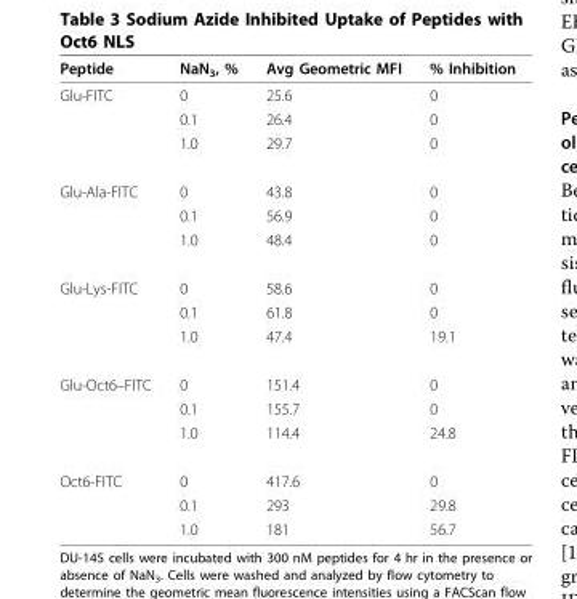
<table><thead><tr><td>Peptide</td><td>NaN<sub>3</sub>, %</td><td>Avg Geometric MFI</td><td>% Inhibition</td></tr></thead><tbody><tr><td rowspan="3">Glu-FITC</td><td>0</td><td>25.6</td><td>0</td></tr><tr><td>0.1</td><td>26.4</td><td>0</td></tr><tr><td>1.0</td><td>29.7</td><td>0</td></tr><tr><td rowspan="3">Glu-Ala-FITC</td><td>0</td><td>43.8</td><td>0</td></tr><tr><td>0.1</td><td>56.9</td><td>0</td></tr><tr><td>1.0</td><td>48.4</td><td>0</td></tr><tr><td rowspan="3">Glu-Lys-FITC</td><td>0</td><td>58.6</td><td>0</td></tr><tr><td>0.1</td><td>61.8</td><td>0</td></tr><tr><td>1.0</td><td>47.4</td><td>19.1</td></tr><tr><td rowspan="3">Glu-Oct6–FITC</td><td>0</td><td>151.4</td><td>0</td></tr><tr><td>0.1</td><td>155.7</td><td>0</td></tr><tr><td>1.0</td><td>114.4</td><td>24.8</td></tr><tr><td rowspan="3">Oct6-FITC</td><td>0</td><td>417.6</td><td>0</td></tr><tr><td>0.1</td><td>293</td><td>29.8</td></tr><tr><td>1.0</td><td>181</td><td>56.7</td></tr></tbody></table>